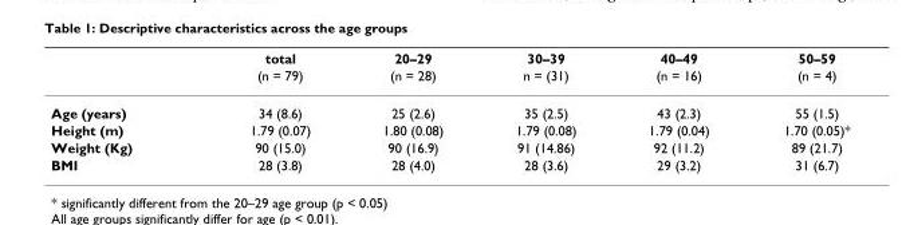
<table><thead><tr><td rowspan="2"></td><td rowspan="2">total (n = 79)</td><td rowspan="2">20–29 (n = 28)</td><td rowspan="2">30–39 n = (31)</td><td rowspan="2">40–49 (n = 16)</td><td rowspan="2">50–59 (n = 4)</td></tr><tr></tr></thead><tbody><tr><td>Age (years)</td><td>34 (8.6)</td><td>25 (2.6)</td><td>35 (2.5)</td><td>43 (2.3)</td><td>55 (1.5)</td></tr><tr><td>Height (m)</td><td>1.79 (0.07)</td><td>1.80 (0.08)</td><td>1.79 (0.08)</td><td>1.79 (0.04)</td><td>1.70 (0.05)*</td></tr><tr><td>Weight (Kg)</td><td>90 (15.0)</td><td>90 (16.9)</td><td>91 (14.86)</td><td>92 (11.2)</td><td>89 (21.7)</td></tr><tr><td>BMI</td><td>28 (3.8)</td><td>28 (4.0)</td><td>28 (3.6)</td><td>29 (3.2)</td><td>31 (6.7)</td></tr></tbody></table>